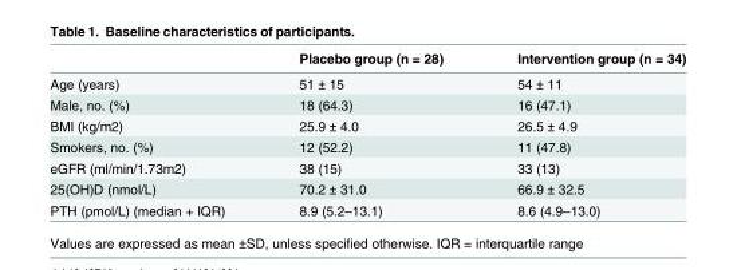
<table><thead><tr><td></td><td>Placebo group (n = 28)</td><td>Intervention group (n = 34)</td></tr></thead><tbody><tr><td>Age (years)</td><td>51 ± 15</td><td>54 ± 11</td></tr><tr><td>Male, no. (%)</td><td>18 (64.3)</td><td>16 (47.1)</td></tr><tr><td>BMI (kg/m2)</td><td>25.9 ± 4.0</td><td>26.5 ± 4.9</td></tr><tr><td>Smokers, no. (%)</td><td>12 (52.2)</td><td>11 (47.8)</td></tr><tr><td>eGFR (ml/min/1.73m2)</td><td>38 (15)</td><td>33 (13)</td></tr><tr><td>25(OH)D (nmol/L)</td><td>70.2 ± 31.0</td><td>66.9 ± 32.5</td></tr><tr><td>PTH (pmol/L) (median + IQR)</td><td>8.9 (5.2–13.1)</td><td>8.6 (4.9–13.0)</td></tr></tbody></table>